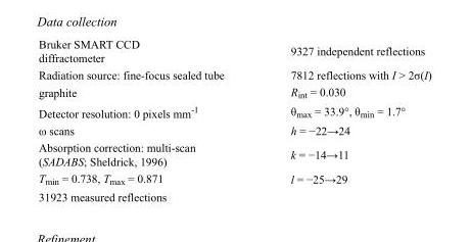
<table><tbody><tr><td>Bruker SMART CCD diffractometer</td><td>9327 independent reflections</td></tr><tr><td>Radiation source: fine-focus sealed tube</td><td>7812 reflections with I &gt; 2σ(I)</td></tr><tr><td>graphite</td><td>R<sub>int</sub> = 0.030</td></tr><tr><td>Detector resolution: 0 pixels mm<sup>-1</sup></td><td>θ<sub>max</sub> = 33.9°, θ<sub>min</sub> = 1.7°</td></tr><tr><td>ω scans</td><td>h = −22→24</td></tr><tr><td>Absorption correction: multi-scan (SADABS; Sheldrick, 1996)</td><td>k = −14→11</td></tr><tr><td>T<sub>min</sub> = 0.738, T<sub>max</sub> = 0.871</td><td>l = −25→29</td></tr><tr><td>31923 measured reflections</td><td></td></tr></tbody></table>